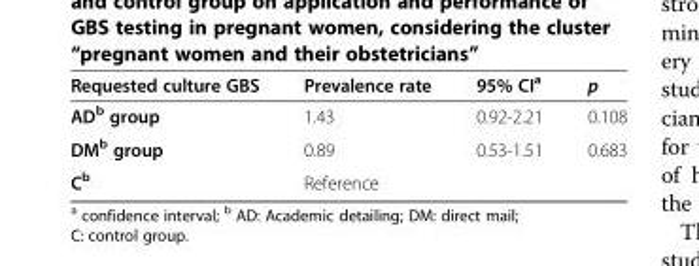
<table><thead><tr><td>Requested culture GBS</td><td>Prevalence rate</td><td>95% CI<sup>a</sup></td><td>p</td></tr></thead><tbody><tr><td>AD<sup>b</sup> group</td><td>1.43</td><td>0.92-2.21</td><td>0.108</td></tr><tr><td>DM<sup>b</sup> group</td><td>0.89</td><td>0.53-1.51</td><td>0.683</td></tr><tr><td>C<sup>b</sup></td><td>Reference</td><td></td><td></td></tr></tbody></table>